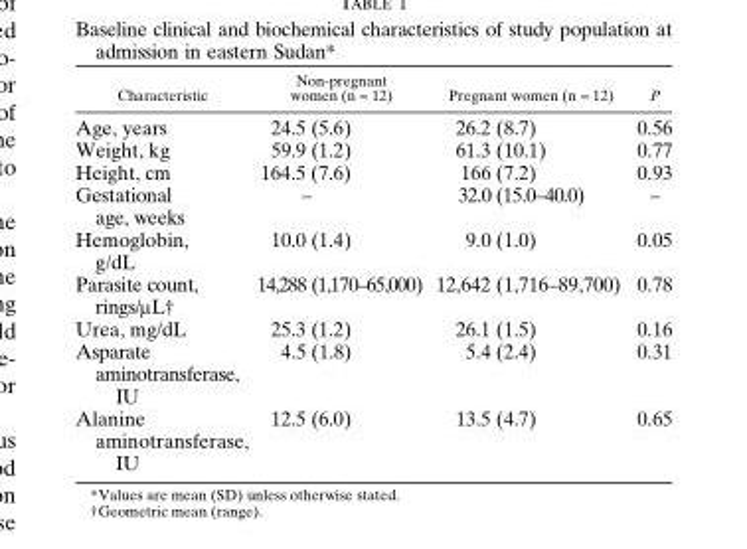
<table><thead><tr><td>Characteristic</td><td>Non-pregnant women (n = 12)</td><td>Pregnant women (n = 12)</td><td>P</td></tr></thead><tbody><tr><td>Age, years</td><td>24.5 (5.6)</td><td>26.2 (8.7)</td><td>0.56</td></tr><tr><td>Weight, kg</td><td>59.9 (1.2)</td><td>61.3 (10.1)</td><td>0.77</td></tr><tr><td>Height, cm</td><td>164.5 (7.6)</td><td>166 (7.2)</td><td>0.93</td></tr><tr><td>Gestational age, weeks</td><td>–</td><td>32.0 (15.0–40.0)</td><td>–</td></tr><tr><td>Hemoglobin, g/dL</td><td>10.0 (1.4)</td><td>9.0 (1.0)</td><td>0.05</td></tr><tr><td>Parasite count, rings/μL†</td><td>14,288 (1,170–65,000)</td><td>12,642 (1,716–89,700)</td><td>0.78</td></tr><tr><td>Urea, mg/dL</td><td>25.3 (1.2)</td><td>26.1 (1.5)</td><td>0.16</td></tr><tr><td>Asparate aminotransferase, IU</td><td>4.5 (1.8)</td><td>5.4 (2.4)</td><td>0.31</td></tr><tr><td>Alanine aminotransferase, IU</td><td>12.5 (6.0)</td><td>13.5 (4.7)</td><td>0.65</td></tr></tbody></table>